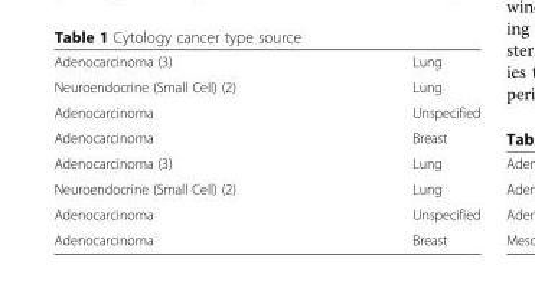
<table><tbody><tr><td>Adenocarcinoma (3)</td><td>Lung</td></tr><tr><td>Neuroendocrine (Small Cell) (2)</td><td>Lung</td></tr><tr><td>Adenocarcinoma</td><td>Unspecified</td></tr><tr><td>Adenocarcinoma</td><td>Breast</td></tr><tr><td>Adenocarcinoma (3)</td><td>Lung</td></tr><tr><td>Neuroendocrine (Small Cell) (2)</td><td>Lung</td></tr><tr><td>Adenocarcinoma</td><td>Unspecified</td></tr><tr><td>Adenocarcinoma</td><td>Breast</td></tr></tbody></table>